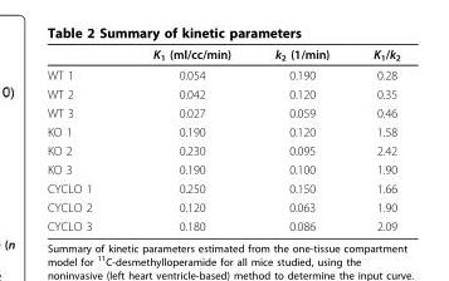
<table><thead><tr><td></td><td>K<sub>1</sub> (ml/cc/min)</td><td>k<sub>2</sub> (1/min)</td><td>K<sub>1</sub>/k<sub>2</sub></td></tr></thead><tbody><tr><td>WT 1</td><td>0.054</td><td>0.190</td><td>0.28</td></tr><tr><td>WT 2</td><td>0.042</td><td>0.120</td><td>0.35</td></tr><tr><td>WT 3</td><td>0.027</td><td>0.059</td><td>0.46</td></tr><tr><td>KO 1</td><td>0.190</td><td>0.120</td><td>1.58</td></tr><tr><td>KO 2</td><td>0.230</td><td>0.095</td><td>2.42</td></tr><tr><td>KO 3</td><td>0.190</td><td>0.100</td><td>1.90</td></tr><tr><td>CYCLO 1</td><td>0.250</td><td>0.150</td><td>1.66</td></tr><tr><td>CYCLO 2</td><td>0.120</td><td>0.063</td><td>1.90</td></tr><tr><td>CYCLO 3</td><td>0.180</td><td>0.086</td><td>2.09</td></tr></tbody></table>